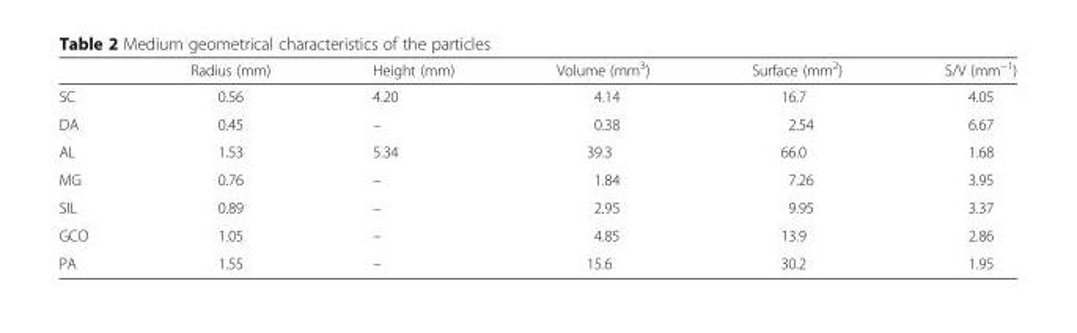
<table><thead><tr><td></td><td>Radius (mm)</td><td>Height (mm)</td><td>Volume (mm<sup>3</sup>)</td><td>Surface (mm<sup>2</sup>)</td><td>S/V (mm<sup>−1</sup>)</td></tr></thead><tbody><tr><td>SC</td><td>0.56</td><td>4.20</td><td>4.14</td><td>16.7</td><td>4.05</td></tr><tr><td>DA</td><td>0.45</td><td>–</td><td>0.38</td><td>2.54</td><td>6.67</td></tr><tr><td>AL</td><td>1.53</td><td>5.34</td><td>39.3</td><td>66.0</td><td>1.68</td></tr><tr><td>MG</td><td>0.76</td><td>–</td><td>1.84</td><td>7.26</td><td>3.95</td></tr><tr><td>SIL</td><td>0.89</td><td>–</td><td>2.95</td><td>9.95</td><td>3.37</td></tr><tr><td>GCO</td><td>1.05</td><td>–</td><td>4.85</td><td>13.9</td><td>2.86</td></tr><tr><td>PA</td><td>1.55</td><td>–</td><td>15.6</td><td>30.2</td><td>1.95</td></tr></tbody></table>